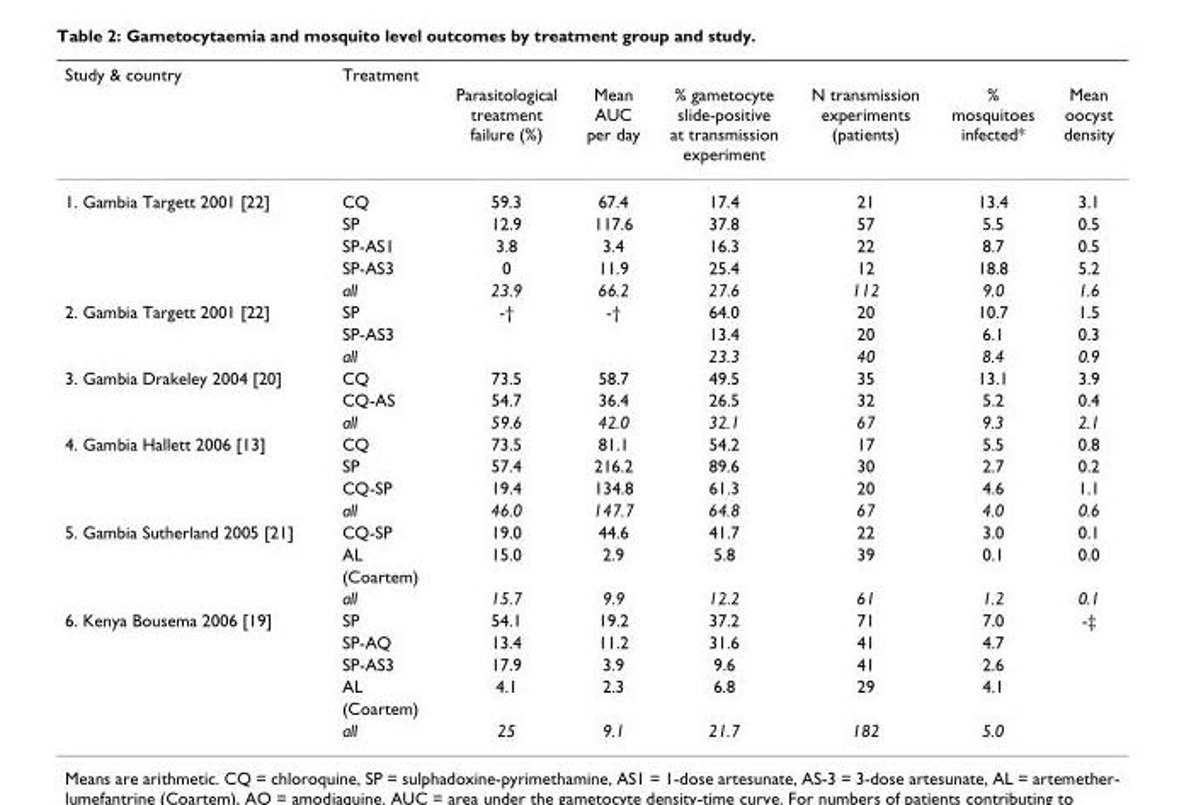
<table><thead><tr><td>Study &amp; country</td><td>Treatment</td><td>Parasitological treatment failure (%)</td><td>Mean AUC per day</td><td>% gametocyte slide-positive at transmission experiment</td><td>N transmission experiments (patients)</td><td>% mosquitoes infected*</td><td>Mean oocyst density</td></tr></thead><tbody><tr><td rowspan="5">1. Gambia Targett 2001 [22]</td><td>CQ</td><td>59.3</td><td>67.4</td><td>17.4</td><td>21</td><td>13.4</td><td>3.1</td></tr><tr><td>SP</td><td>12.9</td><td>117.6</td><td>37.8</td><td>57</td><td>5.5</td><td>0.5</td></tr><tr><td>SP-AS1</td><td>3.8</td><td>3.4</td><td>16.3</td><td>22</td><td>8.7</td><td>0.5</td></tr><tr><td>SP-AS3</td><td>0</td><td>11.9</td><td>25.4</td><td>12</td><td>18.8</td><td>5.2</td></tr><tr><td>all</td><td>23.9</td><td>66.2</td><td>27.6</td><td>112</td><td>9.0</td><td>1.6</td></tr><tr><td rowspan="3">2. Gambia Targett 2001 [22]</td><td>SP</td><td>-†</td><td>-†</td><td>64.0</td><td>20</td><td>10.7</td><td>1.5</td></tr><tr><td>SP-AS3</td><td></td><td></td><td>13.4</td><td>20</td><td>6.1</td><td>0.3</td></tr><tr><td>all</td><td></td><td></td><td>23.3</td><td>40</td><td>8.4</td><td>0.9</td></tr><tr><td rowspan="3">3. Gambia Drakeley 2004 [20]</td><td>CQ</td><td>73.5</td><td>58.7</td><td>49.5</td><td>35</td><td>13.1</td><td>3.9</td></tr><tr><td>CQ-AS</td><td>54.7</td><td>36.4</td><td>26.5</td><td>32</td><td>5.2</td><td>0.4</td></tr><tr><td>all</td><td>59.6</td><td>42.0</td><td>32.1</td><td>67</td><td>9.3</td><td>2.1</td></tr><tr><td rowspan="4">4. Gambia Hallett 2006 [13]</td><td>CQ</td><td>73.5</td><td>81.1</td><td>54.2</td><td>17</td><td>5.5</td><td>0.8</td></tr><tr><td>SP</td><td>57.4</td><td>216.2</td><td>89.6</td><td>30</td><td>2.7</td><td>0.2</td></tr><tr><td>CQ-SP</td><td>19.4</td><td>134.8</td><td>61.3</td><td>20</td><td>4.6</td><td>1.1</td></tr><tr><td>all</td><td>46.0</td><td>147.7</td><td>64.8</td><td>67</td><td>4.0</td><td>0.6</td></tr><tr><td rowspan="4">5. Gambia Sutherland 2005 [21]</td><td>CQ-SP</td><td>19.0</td><td>44.6</td><td>41.7</td><td>22</td><td>3.0</td><td>0.1</td></tr><tr><td>AL</td><td>15.0</td><td>2.9</td><td>5.8</td><td>39</td><td>0.1</td><td>0.0</td></tr><tr><td>(Coartem)</td><td></td><td></td><td></td><td></td><td></td><td></td></tr><tr><td>all</td><td>15.7</td><td>9.9</td><td>12.2</td><td>61</td><td>1.2</td><td>0.1</td></tr><tr><td rowspan="6">6. Kenya Bousema 2006 [19]</td><td>SP</td><td>54.1</td><td>19.2</td><td>37.2</td><td>71</td><td>7.0</td><td>-‡</td></tr><tr><td>SP-AQ</td><td>13.4</td><td>11.2</td><td>31.6</td><td>41</td><td>4.7</td><td></td></tr><tr><td>SP-AS3</td><td>17.9</td><td>3.9</td><td>9.6</td><td>41</td><td>2.6</td><td></td></tr><tr><td>AL</td><td>4.1</td><td>2.3</td><td>6.8</td><td>29</td><td>4.1</td><td></td></tr><tr><td>(Coartem)</td><td></td><td></td><td></td><td></td><td></td><td></td></tr><tr><td>all</td><td>25</td><td>9.1</td><td>21.7</td><td>182</td><td>5.0</td><td></td></tr></tbody></table>